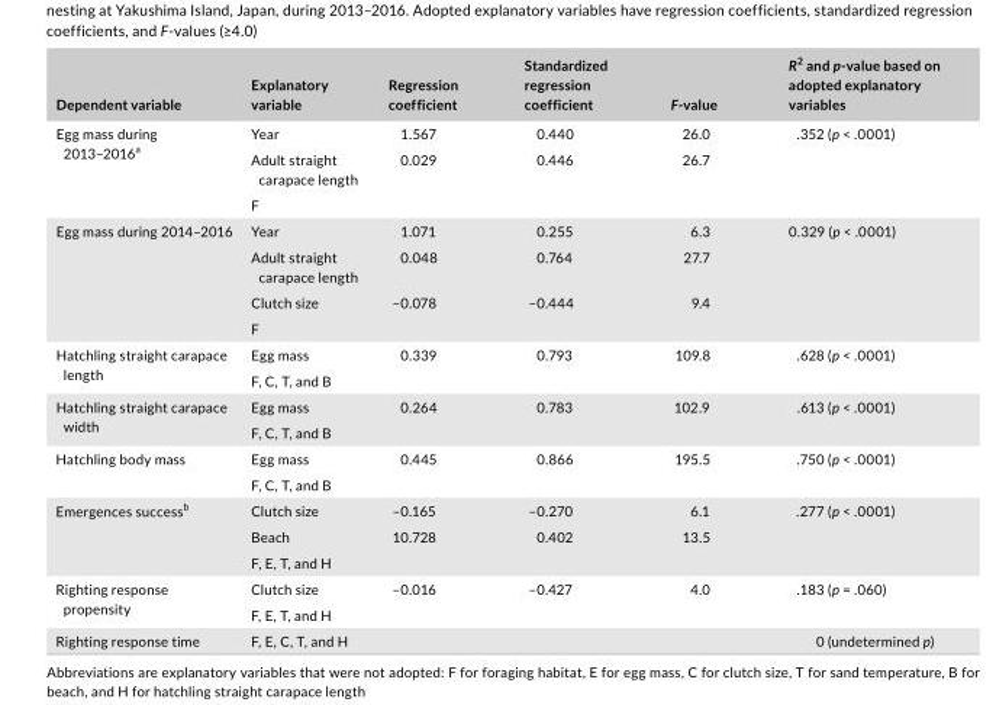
<table><thead><tr><td>Dependent variable</td><td>Explanatory variable</td><td>Regression coefficient</td><td>Standardized regression coefficient</td><td>F- value</td><td>R<sup>2</sup> and p- value based on adopted explanatory variables</td></tr></thead><tbody><tr><td rowspan="3">Egg mass during 2013–2016<sup>a</sup></td><td>Year</td><td>1.567</td><td>0.440</td><td>26.0</td><td rowspan="3">.352 (p &lt; .0001)</td></tr><tr><td>Adult straight carapace length</td><td>0.029</td><td>0.446</td><td>26.7</td></tr><tr><td>F</td><td></td><td></td><td></td></tr><tr><td rowspan="4">Egg mass during 2014–2016</td><td>Year</td><td>1.071</td><td>0.255</td><td>6.3</td><td rowspan="4">0.329 (p &lt; .0001)</td></tr><tr><td>Adult straight carapace length</td><td>0.048</td><td>0.764</td><td>27.7</td></tr><tr><td>Clutch size</td><td>–0.078</td><td>–0.444</td><td>9.4</td></tr><tr><td>F</td><td></td><td></td><td></td></tr><tr><td rowspan="2">Hatchling straight carapace length</td><td>Egg mass</td><td>0.339</td><td>0.793</td><td>109.8</td><td rowspan="2">.628 (p &lt; .0001)</td></tr><tr><td>F, C, T, and B</td><td></td><td></td><td></td></tr><tr><td rowspan="2">Hatchling straight carapace width</td><td>Egg mass</td><td>0.264</td><td>0.783</td><td>102.9</td><td rowspan="2">.613 (p &lt; .0001)</td></tr><tr><td>F, C, T, and B</td><td></td><td></td><td></td></tr><tr><td rowspan="2">Hatchling body mass</td><td>Egg mass</td><td>0.445</td><td>0.866</td><td>195.5</td><td rowspan="2">.750 (p &lt; .0001)</td></tr><tr><td>F, C, T, and B</td><td></td><td></td><td></td></tr><tr><td rowspan="3">Emergences success<sup>b</sup></td><td>Clutch size</td><td>–0.165</td><td>–0.270</td><td>6.1</td><td rowspan="3">.277 (p &lt; .0001)</td></tr><tr><td>Beach</td><td>10.728</td><td>0.402</td><td>13.5</td></tr><tr><td>F, E, T, and H</td><td></td><td></td><td></td></tr><tr><td rowspan="2">Righting response propensity</td><td>Clutch size</td><td>–0.016</td><td>–0.427</td><td>4.0</td><td rowspan="2">.183 (p = .060)</td></tr><tr><td>F, E, T, and H</td><td></td><td></td><td></td></tr><tr><td>Righting response time</td><td>F, E, C, T, and H</td><td></td><td></td><td></td><td>0 (undetermined p)</td></tr></tbody></table>